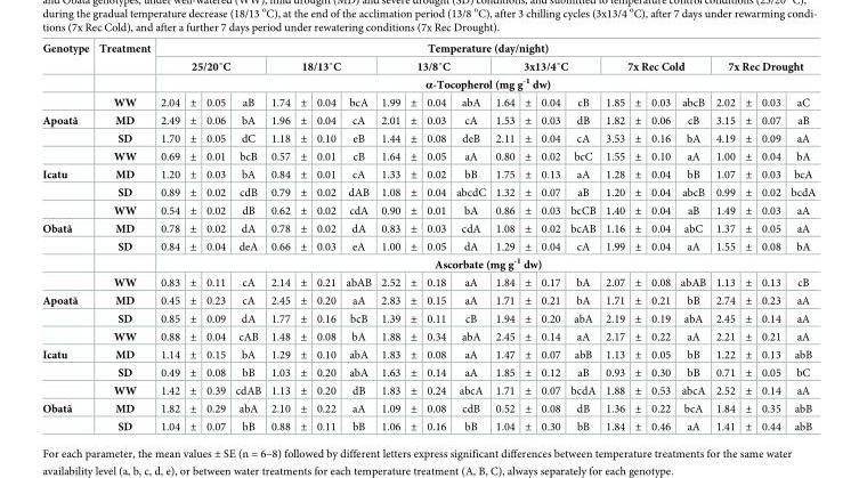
<table><thead><tr><td rowspan="4">Genotype</td><td rowspan="4">Treatment WW</td><td colspan="24">Temperature (day/night)</td></tr><tr><td colspan="4">25/20˚C</td><td colspan="4">18/13˚C</td><td colspan="4">13/8˚C</td><td colspan="4">3x13/4˚C</td><td colspan="4">7x Rec Cold</td><td colspan="4">7x Rec Drought</td></tr><tr><td colspan="24">α-Tocopherol (mg g<sup>-1</sup> dw)</td></tr><tr><td>2.04</td><td>±</td><td>0.05</td><td>aB</td><td>1.74</td><td>±</td><td>0.04</td><td>bcA</td><td>1.99</td><td>±</td><td>0.04</td><td>abA</td><td>1.64</td><td>±</td><td>0.04</td><td>cB</td><td>1.85</td><td>±</td><td>0.03</td><td>abcB</td><td>2.02</td><td>±</td><td>0.03</td><td>aC</td></tr></thead><tbody><tr><td rowspan="3">Apoatã</td><td>MD</td><td>2.49</td><td>±</td><td>0.06</td><td>bA</td><td>1.96</td><td>±</td><td>0.04</td><td>cA</td><td>2.01</td><td>±</td><td>0.03</td><td>cA</td><td>1.53</td><td>±</td><td>0.03</td><td>dB</td><td>1.82</td><td>±</td><td>0.06</td><td>cB</td><td>3.15</td><td>±</td><td>0.07</td><td>aB</td></tr><tr><td>SD</td><td>1.70</td><td>±</td><td>0.05</td><td>dC</td><td>1.18</td><td>±</td><td>0.10</td><td>eB</td><td>1.44</td><td>±</td><td>0.08</td><td>deB</td><td>2.11</td><td>±</td><td>0.04</td><td>cA</td><td>3.53</td><td>±</td><td>0.16</td><td>bA</td><td>4.19</td><td>±</td><td>0.09</td><td>aA</td></tr><tr><td>WW</td><td>0.69</td><td>±</td><td>0.01</td><td>bcB</td><td>0.57</td><td>±</td><td>0.01</td><td>cB</td><td>1.64</td><td>±</td><td>0.05</td><td>aA</td><td>0.80</td><td>±</td><td>0.02</td><td>bcC</td><td>1.55</td><td>±</td><td>0.10</td><td>aA</td><td>1.00</td><td>±</td><td>0.04</td><td>bA</td></tr><tr><td rowspan="3">Icatu</td><td>MD</td><td>1.20</td><td>±</td><td>0.03</td><td>bA</td><td>0.84</td><td>±</td><td>0.01</td><td>cA</td><td>1.33</td><td>±</td><td>0.02</td><td>bB</td><td>1.75</td><td>±</td><td>0.13</td><td>aA</td><td>1.28</td><td>±</td><td>0.04</td><td>bB</td><td>1.07</td><td>±</td><td>0.03</td><td>bcA</td></tr><tr><td>SD</td><td>0.89</td><td>±</td><td>0.02</td><td>cdB</td><td>0.79</td><td>±</td><td>0.02</td><td>dAB</td><td>1.08</td><td>±</td><td>0.04</td><td>abcdC</td><td>1.32</td><td>±</td><td>0.07</td><td>aB</td><td>1.20</td><td>±</td><td>0.04</td><td>abcB</td><td>0.99</td><td>±</td><td>0.02</td><td>bcdA</td></tr><tr><td>WW</td><td>0.54</td><td>±</td><td>0.02</td><td>dB</td><td>0.62</td><td>±</td><td>0.02</td><td>cdA</td><td>0.90</td><td>±</td><td>0.01</td><td>bA</td><td>0.86</td><td>±</td><td>0.03</td><td>bcCB</td><td>1.40</td><td>±</td><td>0.04</td><td>aB</td><td>1.49</td><td>±</td><td>0.03</td><td>aA</td></tr><tr><td rowspan="4">Obatã</td><td>MD</td><td>0.78</td><td>±</td><td>0.02</td><td>dA</td><td>0.78</td><td>±</td><td>0.02</td><td>dA</td><td>0.83</td><td>±</td><td>0.03</td><td>cdA</td><td>1.08</td><td>±</td><td>0.02</td><td>bcAB</td><td>1.16</td><td>±</td><td>0.04</td><td>abC</td><td>1.37</td><td>±</td><td>0.05</td><td>aA</td></tr><tr><td>SD</td><td>0.84</td><td>±</td><td>0.04</td><td>deA</td><td>0.66</td><td>±</td><td>0.03</td><td>eA</td><td>1.00</td><td>±</td><td>0.05</td><td>dA</td><td>1.29</td><td>±</td><td>0.04</td><td>cA</td><td>1.99</td><td>±</td><td>0.04</td><td>aA</td><td>1.55</td><td>±</td><td>0.08</td><td>bA</td></tr><tr><td></td><td colspan="24">Ascorbate (mg g<sup>-1</sup> dw)</td></tr><tr><td>WW</td><td>0.83</td><td>±</td><td>0.11</td><td>cA</td><td>2.14</td><td>±</td><td>0.21</td><td>abAB</td><td>2.52</td><td>±</td><td>0.18</td><td>aA</td><td>1.84</td><td>±</td><td>0.17</td><td>bA</td><td>2.07</td><td>±</td><td>0.08</td><td>abAB</td><td>1.13</td><td>±</td><td>0.13</td><td>cB</td></tr><tr><td rowspan="3">Apoatã</td><td>MD</td><td>0.45</td><td>±</td><td>0.23</td><td>cA</td><td>2.45</td><td>±</td><td>0.20</td><td>aA</td><td>2.83</td><td>±</td><td>0.15</td><td>aA</td><td>1.71</td><td>±</td><td>0.21</td><td>bA</td><td>1.71</td><td>±</td><td>0.21</td><td>bB</td><td>2.74</td><td>±</td><td>0.23</td><td>aA</td></tr><tr><td>SD</td><td>0.85</td><td>±</td><td>0.09</td><td>dA</td><td>1.77</td><td>±</td><td>0.16</td><td>bcB</td><td>1.39</td><td>±</td><td>0.11</td><td>cB</td><td>1.94</td><td>±</td><td>0.20</td><td>abA</td><td>2.19</td><td>±</td><td>0.19</td><td>abA</td><td>2.45</td><td>±</td><td>0.14</td><td>aA</td></tr><tr><td>WW</td><td>0.88</td><td>±</td><td>0.04</td><td>cAB</td><td>1.48</td><td>±</td><td>0.08</td><td>bA</td><td>1.88</td><td>±</td><td>0.34</td><td>abA</td><td>2.45</td><td>±</td><td>0.14</td><td>aA</td><td>2.17</td><td>±</td><td>0.22</td><td>aA</td><td>2.21</td><td>±</td><td>0.21</td><td>aA</td></tr><tr><td rowspan="3">Icatu</td><td>MD</td><td>1.14</td><td>±</td><td>0.15</td><td>bA</td><td>1.29</td><td>±</td><td>0.10</td><td>abA</td><td>1.83</td><td>±</td><td>0.08</td><td>aA</td><td>1.47</td><td>±</td><td>0.07</td><td>abB</td><td>1.13</td><td>±</td><td>0.05</td><td>bB</td><td>1.22</td><td>±</td><td>0.13</td><td>abB</td></tr><tr><td>SD</td><td>0.49</td><td>±</td><td>0.08</td><td>bB</td><td>1.03</td><td>±</td><td>0.20</td><td>abA</td><td>1.63</td><td>±</td><td>0.14</td><td>aA</td><td>1.85</td><td>±</td><td>0.12</td><td>aB</td><td>0.93</td><td>±</td><td>0.30</td><td>bB</td><td>0.71</td><td>±</td><td>0.05</td><td>bC</td></tr><tr><td>WW</td><td>1.42</td><td>±</td><td>0.39</td><td>cdAB</td><td>1.13</td><td>±</td><td>0.20</td><td>dB</td><td>1.83</td><td>±</td><td>0.24</td><td>abcA</td><td>1.71</td><td>±</td><td>0.07</td><td>bcdA</td><td>1.88</td><td>±</td><td>0.53</td><td>abcA</td><td>2.52</td><td>±</td><td>0.14</td><td>aA</td></tr><tr><td rowspan="2">Obatã</td><td>MD</td><td>1.82</td><td>±</td><td>0.29</td><td>abA</td><td>2.10</td><td>±</td><td>0.22</td><td>aA</td><td>1.09</td><td>±</td><td>0.08</td><td>cdB</td><td>0.52</td><td>±</td><td>0.08</td><td>dB</td><td>1.36</td><td>±</td><td>0.22</td><td>bcA</td><td>1.84</td><td>±</td><td>0.35</td><td>abB</td></tr><tr><td>SD</td><td>1.04</td><td>±</td><td>0.07</td><td>bB</td><td>0.88</td><td>±</td><td>0.11</td><td>bB</td><td>1.06</td><td>±</td><td>0.16</td><td>bB</td><td>1.04</td><td>±</td><td>0.30</td><td>bB</td><td>1.84</td><td>±</td><td>0.46</td><td>aA</td><td>1.41</td><td>±</td><td>0.44</td><td>abB</td></tr></tbody></table>